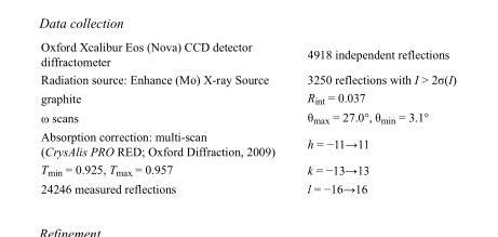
<table><tbody><tr><td>Oxford Xcalibur Eos (Nova) CCD detector diffractometer</td><td>4918 independent reflections</td></tr><tr><td>Radiation source: Enhance (Mo) X-ray Source</td><td>3250 reflections with I &gt; 2σ(I)</td></tr><tr><td>graphite</td><td>R<sub>int</sub> = 0.037</td></tr><tr><td>ω scans</td><td>θ<sub>max</sub> = 27.0°, θ<sub>min</sub> = 3.1°</td></tr><tr><td>Absorption correction: multi-scan (CrysAlis PRO RED; Oxford Diffraction, 2009)</td><td>h = −11→11</td></tr><tr><td>T<sub>min</sub> = 0.925, T<sub>max</sub> = 0.957</td><td>k = −13→13</td></tr><tr><td>24246 measured reflections</td><td>l = −16→16</td></tr></tbody></table>